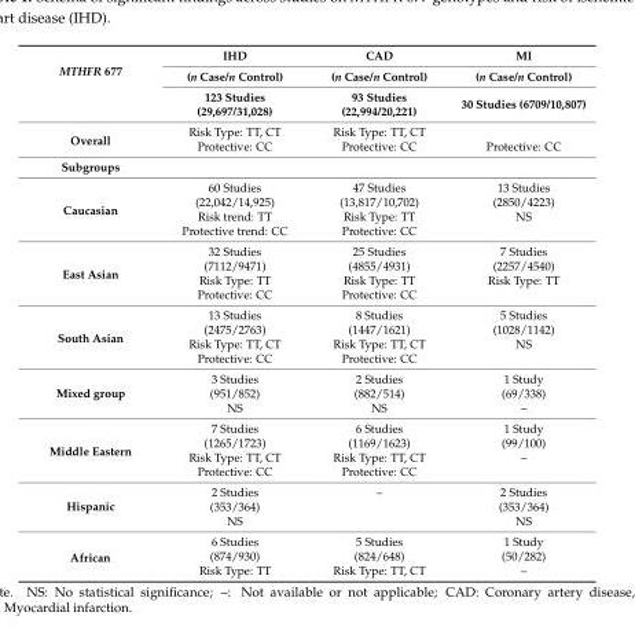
<table><thead><tr><td rowspan="3">MTHFR 677</td><td rowspan="3">IHD (n Case/n Control) 123 Studies (29,697/31,028)</td><td rowspan="3">CAD (n Case/n Control) 93 Studies (22,994/20,221)</td><td rowspan="3">MI (n Case/n Control) 30 Studies (6709/10,807)</td></tr><tr></tr><tr></tr></thead><tbody><tr><td rowspan="2">Overall</td><td>Risk Type: TT, CT</td><td>Risk Type: TT, CT</td><td></td></tr><tr><td>Protective: CC</td><td>Protective: CC</td><td>Protective: CC</td></tr><tr><td colspan="4">Subgroups</td></tr><tr><td rowspan="4">Caucasian</td><td>60 Studies</td><td>47 Studies</td><td>13 Studies</td></tr><tr><td>(22,042/14,925)</td><td>(13,817/10,702)</td><td>(2850/4223)</td></tr><tr><td>Risk trend: TT</td><td>Risk Type: TT</td><td>NS</td></tr><tr><td>Protective trend: CC</td><td>Protective: CC</td><td></td></tr><tr><td rowspan="4">East Asian</td><td>32 Studies</td><td>25 Studies</td><td>7 Studies</td></tr><tr><td>(7112/9471)</td><td>(4855/4931)</td><td>(2257/4540)</td></tr><tr><td>Risk Type: TT</td><td>Risk Type: TT</td><td>Risk Type: TT</td></tr><tr><td>Protective: CC</td><td>Protective: CC</td><td></td></tr><tr><td rowspan="4">South Asian</td><td>13 Studies</td><td>8 Studies</td><td>5 Studies</td></tr><tr><td>(2475/2763)</td><td>(1447/1621)</td><td>(1028/1142)</td></tr><tr><td>Risk Type: TT, CT</td><td>Risk Type: TT, CT</td><td>NS</td></tr><tr><td>Protective: CC</td><td>Protective: CC</td><td></td></tr><tr><td rowspan="3">Mixed group</td><td>3 Studies</td><td>2 Studies</td><td>1 Study</td></tr><tr><td>(951/852)</td><td>(882/514)</td><td>(69/338)</td></tr><tr><td>NS</td><td>NS</td><td>–</td></tr><tr><td rowspan="4">Middle Eastern</td><td>7 Studies</td><td>6 Studies</td><td>1 Study</td></tr><tr><td>(1265/1723)</td><td>(1169/1623)</td><td>(99/100)</td></tr><tr><td>Risk Type: TT, CT</td><td>Risk Type: TT, CT</td><td>–</td></tr><tr><td>Protective: CC</td><td>Protective: CC</td><td></td></tr><tr><td rowspan="3">Hispanic</td><td>2 Studies</td><td>–</td><td>2 Studies</td></tr><tr><td>(353/364)</td><td></td><td>(353/364)</td></tr><tr><td>NS</td><td></td><td>NS</td></tr><tr><td rowspan="3">African</td><td>6 Studies</td><td>5 Studies</td><td>1 Study</td></tr><tr><td>(874/930)</td><td>(824/648)</td><td>(50/282)</td></tr><tr><td>Risk Type: TT</td><td>Risk Type: TT, CT</td><td>–</td></tr></tbody></table>